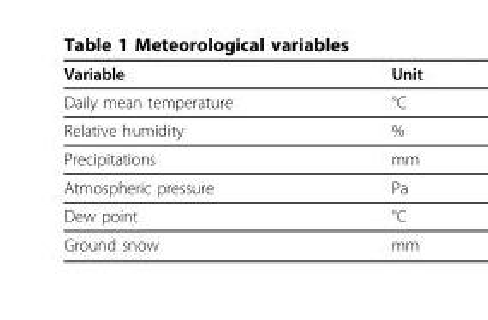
<table><thead><tr><td>Variable</td><td>Unit</td></tr></thead><tbody><tr><td>Daily mean temperature</td><td>°C</td></tr><tr><td>Relative humidity</td><td>%</td></tr><tr><td>Precipitations</td><td>mm</td></tr><tr><td>Atmospheric pressure</td><td>Pa</td></tr><tr><td>Dew point</td><td>°C</td></tr><tr><td>Ground snow</td><td>mm</td></tr></tbody></table>